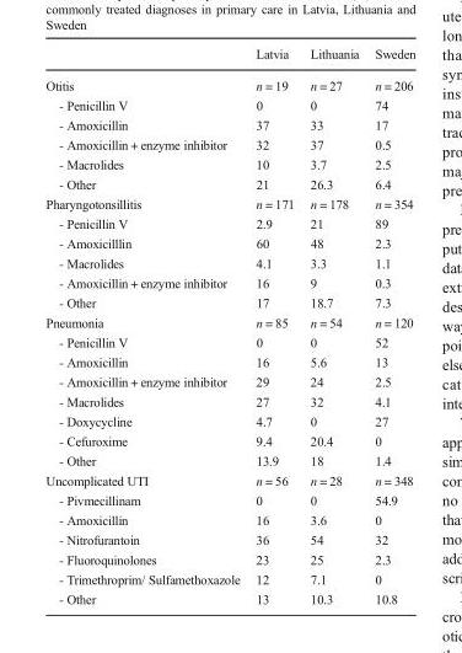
<table><thead><tr><td></td><td>Latvia</td><td>Lithuania</td><td>Sweden</td></tr></thead><tbody><tr><td>Otitis</td><td>n = 19</td><td>n = 27</td><td>n = 206</td></tr><tr><td>- Penicillin V</td><td>0</td><td>0</td><td>74</td></tr><tr><td>- Amoxicillin</td><td>37</td><td>33</td><td>17</td></tr><tr><td>- Amoxicillin + enzyme inhibitor</td><td>32</td><td>37</td><td>0.5</td></tr><tr><td>- Macrolides</td><td>10</td><td>3.7</td><td>2.5</td></tr><tr><td>- Other</td><td>21</td><td>26.3</td><td>6.4</td></tr><tr><td>Pharyngotonsillitis</td><td>n = 171</td><td>n = 178</td><td>n = 354</td></tr><tr><td>- Penicillin V</td><td>2.9</td><td>21</td><td>89</td></tr><tr><td>- Amoxicilllin</td><td>60</td><td>48</td><td>2.3</td></tr><tr><td>- Macrolides</td><td>4.1</td><td>3.3</td><td>1.1</td></tr><tr><td>- Amoxicillin + enzyme inhibitor</td><td>16</td><td>9</td><td>0.3</td></tr><tr><td>- Other</td><td>17</td><td>18.7</td><td>7.3</td></tr><tr><td>Pneumonia</td><td>n = 85</td><td>n = 54</td><td>n = 120</td></tr><tr><td>- Penicillin V</td><td>0</td><td>0</td><td>52</td></tr><tr><td>- Amoxicillin</td><td>16</td><td>5.6</td><td>13</td></tr><tr><td>- Amoxicillin + enzyme inhibitor</td><td>29</td><td>24</td><td>2.5</td></tr><tr><td>- Macrolides</td><td>27</td><td>32</td><td>4.1</td></tr><tr><td>- Doxycycline</td><td>4.7</td><td>0</td><td>27</td></tr><tr><td>- Cefuroxime</td><td>9.4</td><td>20.4</td><td>0</td></tr><tr><td>- Other</td><td>13.9</td><td>18</td><td>1.4</td></tr><tr><td>Uncomplicated UTI</td><td>n = 56</td><td>n = 28</td><td>n = 348</td></tr><tr><td>- Pivmecillinam</td><td>0</td><td>0</td><td>54.9</td></tr><tr><td>- Amoxicillin</td><td>16</td><td>3.6</td><td>0</td></tr><tr><td>- Nitrofurantoin</td><td>36</td><td>54</td><td>32</td></tr><tr><td>- Fluoroquinolones</td><td>23</td><td>25</td><td>2.3</td></tr><tr><td>- Trimethroprim/ Sulfamethoxazole</td><td>12</td><td>7.1</td><td>0</td></tr><tr><td>- Other</td><td>13</td><td>10.3</td><td>10.8</td></tr></tbody></table>